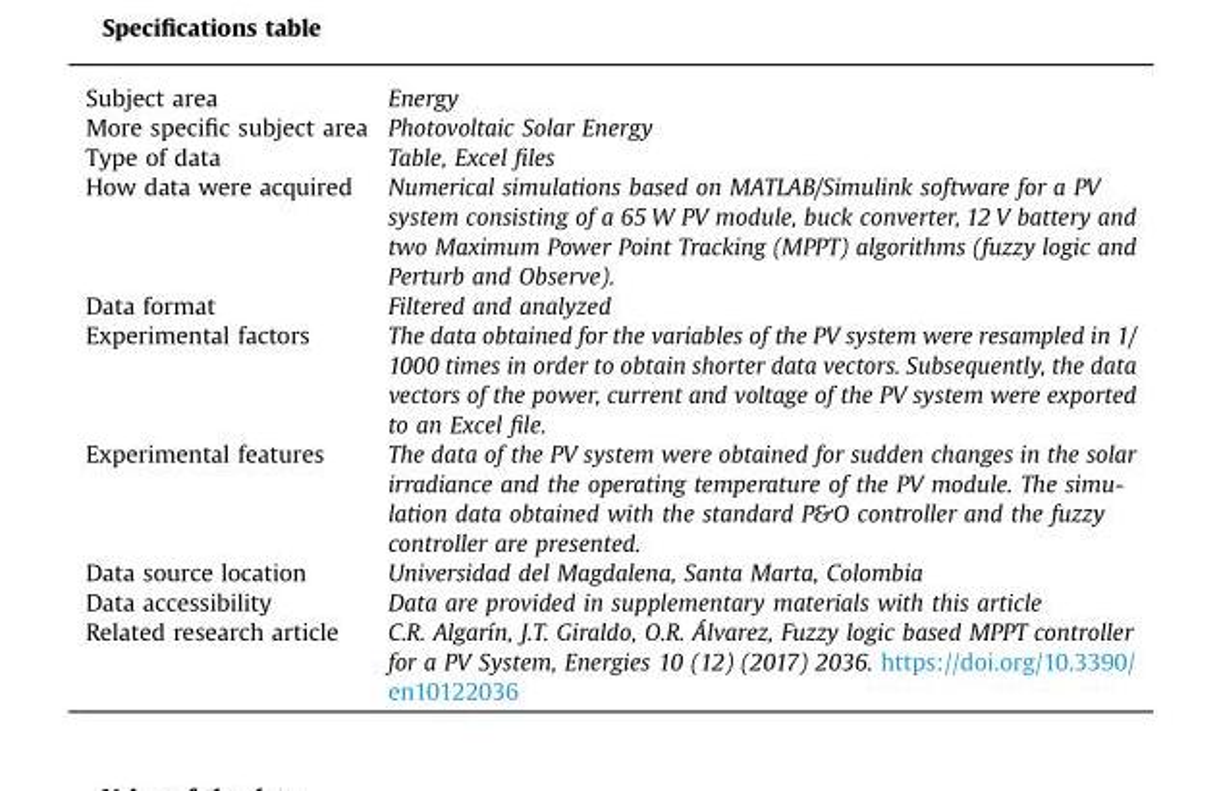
<table><tbody><tr><td>Subject area</td><td>Energy</td></tr><tr><td>More specific subject area</td><td>Photovoltaic Solar Energy</td></tr><tr><td>Type of data</td><td>Table, Excel files</td></tr><tr><td>How data were acquired</td><td>Numerical simulations based on MATLAB/Simulink software for a PV system consisting of a 65 W PV module, buck converter, 12 V battery and two Maximum Power Point Tracking (MPPT) algorithms (fuzzy logic and Perturb and Observe).</td></tr><tr><td>Data format</td><td>Filtered and analyzed</td></tr><tr><td>Experimental factors</td><td>The data obtained for the variables of the PV system were resampled in 1/ 1000 times in order to obtain shorter data vectors. Subsequently, the data vectors of the power, current and voltage of the PV system were exported to an Excel file.</td></tr><tr><td>Experimental features</td><td>The data of the PV system were obtained for sudden changes in the solar irradiance and the operating temperature of the PV module. The simu- lation data obtained with the standard P&amp;O controller and the fuzzy controller are presented.</td></tr><tr><td>Data source location</td><td>Universidad del Magdalena, Santa Marta, Colombia</td></tr><tr><td>Data accessibility</td><td>Data are provided in supplementary materials with this article</td></tr><tr><td>Related research article</td><td>C.R. Algarín, J.T. Giraldo, O.R. Álvarez, Fuzzy logic based MPPT controller for a PV System, Energies 10 (12) (2017) 2036. https://doi.org/10.3390/ en10122036</td></tr></tbody></table>